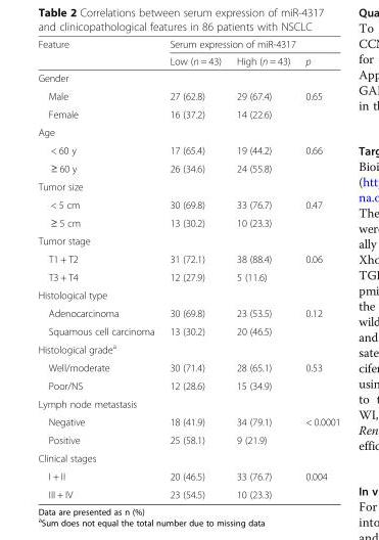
<table><thead><tr><td rowspan="2">Feature</td><td colspan="3">Serum expression of miR-4317</td></tr><tr><td>Low (n = 43)</td><td>High (n = 43)</td><td>p</td></tr></thead><tbody><tr><td colspan="4">Gender</td></tr><tr><td>Male</td><td>27 (62.8)</td><td>29 (67.4)</td><td rowspan="2">0.65</td></tr><tr><td>Female</td><td>16 (37.2)</td><td>14 (22.6)</td></tr><tr><td colspan="4">Age</td></tr><tr><td>&lt; 60 y</td><td>17 (65.4)</td><td>19 (44.2)</td><td rowspan="2">0.66</td></tr><tr><td>≥ 60 y</td><td>26 (34.6)</td><td>24 (55.8)</td></tr><tr><td colspan="4">Tumor size</td></tr><tr><td>&lt; 5 cm</td><td>30 (69.8)</td><td>33 (76.7)</td><td rowspan="2">0.47</td></tr><tr><td>≥ 5 cm</td><td>13 (30.2)</td><td>10 (23.3)</td></tr><tr><td colspan="4">Tumor stage</td></tr><tr><td>T1 + T2</td><td>31 (72.1)</td><td>38 (88.4)</td><td rowspan="2">0.06</td></tr><tr><td>T3 + T4</td><td>12 (27.9)</td><td>5 (11.6)</td></tr><tr><td colspan="4">Histological type</td></tr><tr><td>Adenocarcinoma</td><td>30 (69.8)</td><td>23 (53.5)</td><td rowspan="2">0.12</td></tr><tr><td>Squamous cell carcinoma</td><td>13 (30.2)</td><td>20 (46.5)</td></tr><tr><td colspan="4">Histological grade<sup>a</sup></td></tr><tr><td>Well/moderate</td><td>30 (71.4)</td><td>28 (65.1)</td><td rowspan="2">0.53</td></tr><tr><td>Poor/NS</td><td>12 (28.6)</td><td>15 (34.9)</td></tr><tr><td colspan="4">Lymph node metastasis</td></tr><tr><td>Negative</td><td>18 (41.9)</td><td>34 (79.1)</td><td rowspan="2">&lt; 0.0001</td></tr><tr><td>Positive</td><td>25 (58.1)</td><td>9 (21.9)</td></tr><tr><td colspan="4">Clinical stages</td></tr><tr><td>I + II</td><td>20 (46.5)</td><td>33 (76.7)</td><td rowspan="2">0.004</td></tr><tr><td>III + IV</td><td>23 (54.5)</td><td>10 (23.3)</td></tr></tbody></table>